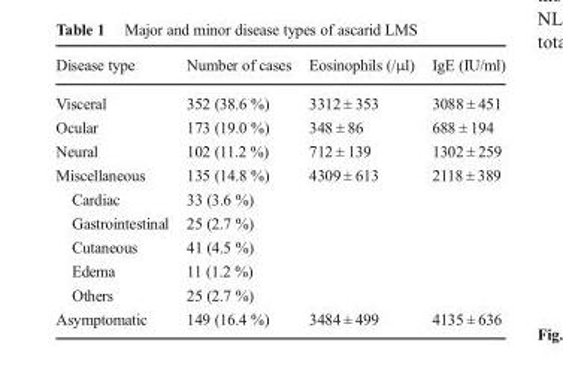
<table><thead><tr><td>Disease type</td><td>Number of cases</td><td>Eosinophils (/μl)</td><td>IgE (IU/ml)</td></tr></thead><tbody><tr><td>Visceral</td><td>352 (38.6 %)</td><td>3312 ± 353</td><td>3088 ± 451</td></tr><tr><td>Ocular</td><td>173 (19.0 %)</td><td>348 ± 86</td><td>688 ± 194</td></tr><tr><td>Neural</td><td>102 (11.2 %)</td><td>712 ± 139</td><td>1302 ± 259</td></tr><tr><td>Miscellaneous</td><td>135 (14.8 %)</td><td>4309 ± 613</td><td>2118 ± 389</td></tr><tr><td>Cardiac</td><td>33 (3.6 %)</td><td></td><td></td></tr><tr><td>Gastrointestinal</td><td>25 (2.7 %)</td><td></td><td></td></tr><tr><td>Cutaneous</td><td>41 (4.5 %)</td><td></td><td></td></tr><tr><td>Edema</td><td>11 (1.2 %)</td><td></td><td></td></tr><tr><td>Others</td><td>25 (2.7 %)</td><td></td><td></td></tr><tr><td>Asymptomatic</td><td>149 (16.4 %)</td><td>3484 ± 499</td><td>4135 ± 636</td></tr></tbody></table>